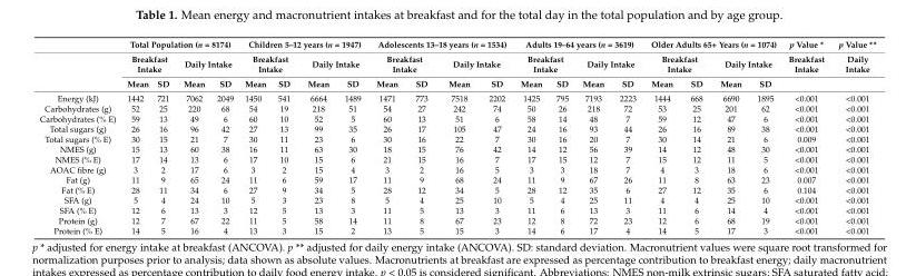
<table><thead><tr><td rowspan="3"></td><td colspan="4">Total Population (n = 8174)</td><td colspan="4">Children 5–12 years (n = 1947)</td><td colspan="4">Adolescents 13–18 years (n = 1534)</td><td colspan="4">Adults 19–64 years (n = 3619)</td><td colspan="4">Older Adults 65+ Years (n = 1074)</td><td rowspan="3">p Value * Breakfast Intake</td><td rowspan="3">p Value ** Daily Intake</td></tr><tr><td colspan="2">Breakfast Intake</td><td colspan="2">Daily Intake</td><td colspan="2">Breakfast Intake</td><td colspan="2">Daily Intake</td><td colspan="2">Breakfast Intake</td><td colspan="2">Daily Intake</td><td colspan="2">Breakfast Intake</td><td colspan="2">Daily Intake</td><td colspan="2">Breakfast Intake</td><td colspan="2">Daily Intake</td></tr><tr><td>Mean</td><td>SD</td><td>Mean</td><td>SD</td><td>Mean</td><td>SD</td><td>Mean</td><td>SD</td><td>Mean</td><td>SD</td><td>Mean</td><td>SD</td><td>Mean</td><td>SD</td><td>Mean</td><td>SD</td><td>Mean</td><td>SD</td><td>Mean</td><td>SD</td></tr></thead><tbody><tr><td>Energy (kJ)</td><td>1442</td><td>721</td><td>7062</td><td>2049</td><td>1450</td><td>541</td><td>6664</td><td>1489</td><td>1471</td><td>773</td><td>7518</td><td>2202</td><td>1425</td><td>795</td><td>7193</td><td>2223</td><td>1444</td><td>668</td><td>6690</td><td>1895</td><td>&lt;0.001</td><td>&lt;0.001</td></tr><tr><td>Carbohydrates (g)</td><td>52</td><td>25</td><td>220</td><td>68</td><td>54</td><td>19</td><td>218</td><td>51</td><td>54</td><td>27</td><td>242</td><td>74</td><td>50</td><td>26</td><td>218</td><td>72</td><td>53</td><td>25</td><td>201</td><td>62</td><td>&lt;0.001</td><td>&lt;0.001</td></tr><tr><td>Carbohydrates (% E)</td><td>59</td><td>13</td><td>49</td><td>6</td><td>60</td><td>10</td><td>52</td><td>5</td><td>60</td><td>13</td><td>51</td><td>6</td><td>58</td><td>14</td><td>48</td><td>7</td><td>59</td><td>12</td><td>47</td><td>6</td><td>&lt;0.001</td><td>&lt;0.001</td></tr><tr><td>Total sugars (g)</td><td>26</td><td>16</td><td>96</td><td>42</td><td>27</td><td>13</td><td>99</td><td>35</td><td>26</td><td>17</td><td>105</td><td>47</td><td>24</td><td>16</td><td>93</td><td>44</td><td>26</td><td>16</td><td>89</td><td>38</td><td>&lt;0.001</td><td>&lt;0.001</td></tr><tr><td>Total sugars (% E)</td><td>30</td><td>15</td><td>21</td><td>7</td><td>30</td><td>11</td><td>23</td><td>6</td><td>30</td><td>16</td><td>22</td><td>7</td><td>30</td><td>16</td><td>20</td><td>7</td><td>30</td><td>14</td><td>21</td><td>6</td><td>0.009</td><td>&lt;0.001</td></tr><tr><td>NMES (g)</td><td>15</td><td>13</td><td>60</td><td>38</td><td>16</td><td>11</td><td>63</td><td>30</td><td>18</td><td>15</td><td>76</td><td>42</td><td>14</td><td>12</td><td>56</td><td>39</td><td>14</td><td>12</td><td>48</td><td>30</td><td>&lt;0.001</td><td>&lt;0.001</td></tr><tr><td>NMES (% E)</td><td>17</td><td>14</td><td>13</td><td>6</td><td>17</td><td>10</td><td>15</td><td>6</td><td>21</td><td>15</td><td>16</td><td>7</td><td>17</td><td>15</td><td>12</td><td>7</td><td>15</td><td>12</td><td>11</td><td>5</td><td>&lt;0.001</td><td>&lt;0.001</td></tr><tr><td>AOAC fibre (g)</td><td>3</td><td>2</td><td>17</td><td>6</td><td>3</td><td>2</td><td>15</td><td>4</td><td>3</td><td>2</td><td>16</td><td>5</td><td>3</td><td>3</td><td>18</td><td>7</td><td>4</td><td>3</td><td>18</td><td>6</td><td>&lt;0.001</td><td>&lt;0.001</td></tr><tr><td>Fat (g)</td><td>11</td><td>9</td><td>65</td><td>24</td><td>11</td><td>6</td><td>59</td><td>17</td><td>11</td><td>9</td><td>68</td><td>24</td><td>11</td><td>9</td><td>67</td><td>26</td><td>11</td><td>8</td><td>63</td><td>23</td><td>0.007</td><td>&lt;0.001</td></tr><tr><td>Fat (% E)</td><td>28</td><td>11</td><td>34</td><td>6</td><td>27</td><td>9</td><td>34</td><td>5</td><td>28</td><td>12</td><td>34</td><td>5</td><td>28</td><td>12</td><td>35</td><td>6</td><td>27</td><td>12</td><td>35</td><td>6</td><td>0.104</td><td>&lt;0.001</td></tr><tr><td>SFA (g)</td><td>5</td><td>4</td><td>24</td><td>10</td><td>5</td><td>3</td><td>23</td><td>8</td><td>5</td><td>4</td><td>25</td><td>10</td><td>5</td><td>4</td><td>25</td><td>11</td><td>4</td><td>4</td><td>25</td><td>10</td><td>&lt;0.001</td><td>&lt;0.001</td></tr><tr><td>SFA (% E)</td><td>12</td><td>6</td><td>13</td><td>3</td><td>12</td><td>5</td><td>13</td><td>3</td><td>11</td><td>5</td><td>13</td><td>3</td><td>11</td><td>6</td><td>13</td><td>3</td><td>11</td><td>6</td><td>14</td><td>4</td><td>&lt;0.001</td><td>&lt;0.001</td></tr><tr><td>Protein (g)</td><td>12</td><td>7</td><td>67</td><td>22</td><td>11</td><td>5</td><td>58</td><td>14</td><td>11</td><td>8</td><td>67</td><td>23</td><td>12</td><td>8</td><td>72</td><td>23</td><td>12</td><td>6</td><td>68</td><td>19</td><td>&lt;0.001</td><td>&lt;0.001</td></tr><tr><td>Protein (% E)</td><td>14</td><td>5</td><td>16</td><td>4</td><td>13</td><td>3</td><td>15</td><td>2</td><td>13</td><td>5</td><td>15</td><td>3</td><td>14</td><td>6</td><td>17</td><td>4</td><td>14</td><td>5</td><td>17</td><td>3</td><td>&lt;0.001</td><td>&lt;0.001</td></tr></tbody></table>